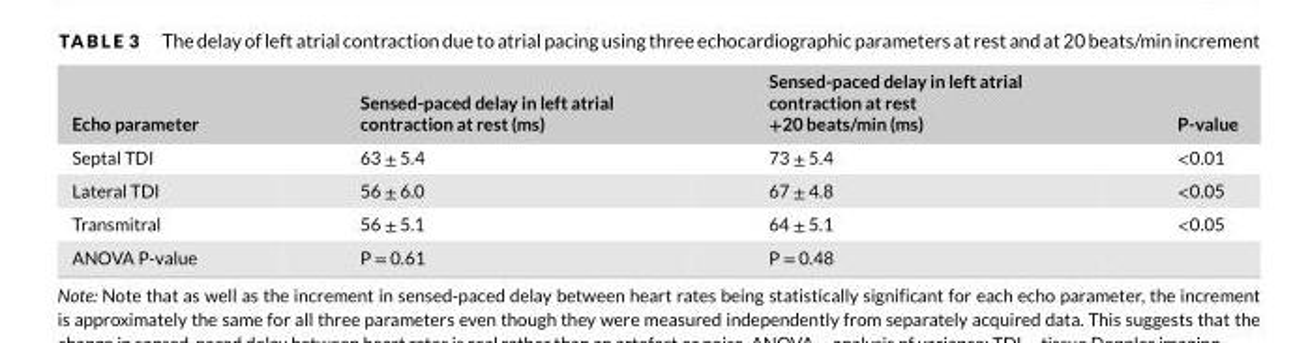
<table><thead><tr><td>Echo parameter</td><td>Sensed-paced delay in left atrial contraction at rest (ms)</td><td>Sensed-paced delay in left atrial contraction at rest +20 beats/min (ms)</td><td>P-value</td></tr></thead><tbody><tr><td>Septal TDI</td><td>63 ± 5.4</td><td>73 ± 5.4</td><td>&lt;0.01</td></tr><tr><td>Lateral TDI</td><td>56 ± 6.0</td><td>67 ± 4.8</td><td>&lt;0.05</td></tr><tr><td>Transmitral</td><td>56 ± 5.1</td><td>64 ± 5.1</td><td>&lt;0.05</td></tr><tr><td>ANOVA P-value</td><td>P = 0.61</td><td>P = 0.48</td><td></td></tr></tbody></table>